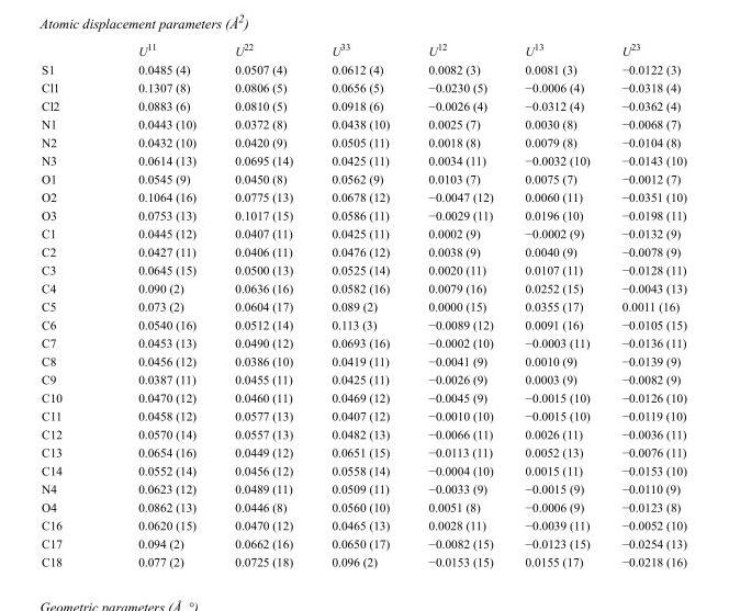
<table><thead><tr><td></td><td>U<sup>11</sup></td><td>U<sup>22</sup></td><td>U<sup>33</sup></td><td>U<sup>12</sup></td><td>U<sup>13</sup></td><td>U<sup>23</sup></td></tr></thead><tbody><tr><td>S1</td><td>0.0485 (4)</td><td>0.0507 (4)</td><td>0.0612 (4)</td><td>0.0082 (3)</td><td>0.0081 (3)</td><td>−0.0122 (3)</td></tr><tr><td>Cl1</td><td>0.1307 (8)</td><td>0.0806 (5)</td><td>0.0656 (5)</td><td>−0.0230 (5)</td><td>−0.0006 (4)</td><td>−0.0318 (4)</td></tr><tr><td>Cl2</td><td>0.0883 (6)</td><td>0.0810 (5)</td><td>0.0918 (6)</td><td>−0.0026 (4)</td><td>−0.0312 (4)</td><td>−0.0362 (4)</td></tr><tr><td>N1</td><td>0.0443 (10)</td><td>0.0372 (8)</td><td>0.0438 (10)</td><td>0.0025 (7)</td><td>0.0030 (8)</td><td>−0.0068 (7)</td></tr><tr><td>N2</td><td>0.0432 (10)</td><td>0.0420 (9)</td><td>0.0505 (11)</td><td>0.0018 (8)</td><td>0.0079 (8)</td><td>−0.0104 (8)</td></tr><tr><td>N3</td><td>0.0614 (13)</td><td>0.0695 (14)</td><td>0.0425 (11)</td><td>0.0034 (11)</td><td>−0.0032 (10)</td><td>−0.0143 (10)</td></tr><tr><td>O1</td><td>0.0545 (9)</td><td>0.0450 (8)</td><td>0.0562 (9)</td><td>0.0103 (7)</td><td>0.0075 (7)</td><td>−0.0012 (7)</td></tr><tr><td>O2</td><td>0.1064 (16)</td><td>0.0775 (13)</td><td>0.0678 (12)</td><td>−0.0047 (12)</td><td>0.0060 (11)</td><td>−0.0351 (10)</td></tr><tr><td>O3</td><td>0.0753 (13)</td><td>0.1017 (15)</td><td>0.0586 (11)</td><td>−0.0029 (11)</td><td>0.0196 (10)</td><td>−0.0198 (11)</td></tr><tr><td>C1</td><td>0.0445 (12)</td><td>0.0407 (11)</td><td>0.0425 (11)</td><td>0.0002 (9)</td><td>−0.0002 (9)</td><td>−0.0132 (9)</td></tr><tr><td>C2</td><td>0.0427 (11)</td><td>0.0406 (11)</td><td>0.0476 (12)</td><td>0.0038 (9)</td><td>0.0040 (9)</td><td>−0.0078 (9)</td></tr><tr><td>C3</td><td>0.0645 (15)</td><td>0.0500 (13)</td><td>0.0525 (14)</td><td>0.0020 (11)</td><td>0.0107 (11)</td><td>−0.0128 (11)</td></tr><tr><td>C4</td><td>0.090 (2)</td><td>0.0636 (16)</td><td>0.0582 (16)</td><td>0.0079 (16)</td><td>0.0252 (15)</td><td>−0.0043 (13)</td></tr><tr><td>C5</td><td>0.073 (2)</td><td>0.0604 (17)</td><td>0.089 (2)</td><td>0.0000 (15)</td><td>0.0355 (17)</td><td>0.0011 (16)</td></tr><tr><td>C6</td><td>0.0540 (16)</td><td>0.0512 (14)</td><td>0.113 (3)</td><td>−0.0089 (12)</td><td>0.0091 (16)</td><td>−0.0105 (15)</td></tr><tr><td>C7</td><td>0.0453 (13)</td><td>0.0490 (12)</td><td>0.0693 (16)</td><td>−0.0002 (10)</td><td>−0.0003 (11)</td><td>−0.0136 (11)</td></tr><tr><td>C8</td><td>0.0456 (12)</td><td>0.0386 (10)</td><td>0.0419 (11)</td><td>−0.0041 (9)</td><td>0.0010 (9)</td><td>−0.0139 (9)</td></tr><tr><td>C9</td><td>0.0387 (11)</td><td>0.0455 (11)</td><td>0.0425 (11)</td><td>−0.0026 (9)</td><td>0.0003 (9)</td><td>−0.0082 (9)</td></tr><tr><td>C10</td><td>0.0470 (12)</td><td>0.0460 (11)</td><td>0.0469 (12)</td><td>−0.0045 (9)</td><td>−0.0015 (10)</td><td>−0.0126 (10)</td></tr><tr><td>C11</td><td>0.0458 (12)</td><td>0.0577 (13)</td><td>0.0407 (12)</td><td>−0.0010 (10)</td><td>−0.0015 (10)</td><td>−0.0119 (10)</td></tr><tr><td>C12</td><td>0.0570 (14)</td><td>0.0557 (13)</td><td>0.0482 (13)</td><td>−0.0066 (11)</td><td>0.0026 (11)</td><td>−0.0036 (11)</td></tr><tr><td>C13</td><td>0.0654 (16)</td><td>0.0449 (12)</td><td>0.0651 (15)</td><td>−0.0113 (11)</td><td>0.0052 (13)</td><td>−0.0076 (11)</td></tr><tr><td>C14</td><td>0.0552 (14)</td><td>0.0456 (12)</td><td>0.0558 (14)</td><td>−0.0004 (10)</td><td>0.0015 (11)</td><td>−0.0153 (10)</td></tr><tr><td>N4</td><td>0.0623 (12)</td><td>0.0489 (11)</td><td>0.0509 (11)</td><td>−0.0033 (9)</td><td>−0.0015 (9)</td><td>−0.0110 (9)</td></tr><tr><td>O4</td><td>0.0862 (13)</td><td>0.0446 (8)</td><td>0.0560 (10)</td><td>0.0051 (8)</td><td>−0.0006 (9)</td><td>−0.0123 (8)</td></tr><tr><td>C16</td><td>0.0620 (15)</td><td>0.0470 (12)</td><td>0.0465 (13)</td><td>0.0028 (11)</td><td>−0.0039 (11)</td><td>−0.0052 (10)</td></tr><tr><td>C17</td><td>0.094 (2)</td><td>0.0662 (16)</td><td>0.0650 (17)</td><td>−0.0082 (15)</td><td>−0.0123 (15)</td><td>−0.0254 (13)</td></tr><tr><td>C18</td><td>0.077 (2)</td><td>0.0725 (18)</td><td>0.096 (2)</td><td>−0.0153 (15)</td><td>0.0155 (17)</td><td>−0.0218 (16)</td></tr></tbody></table>